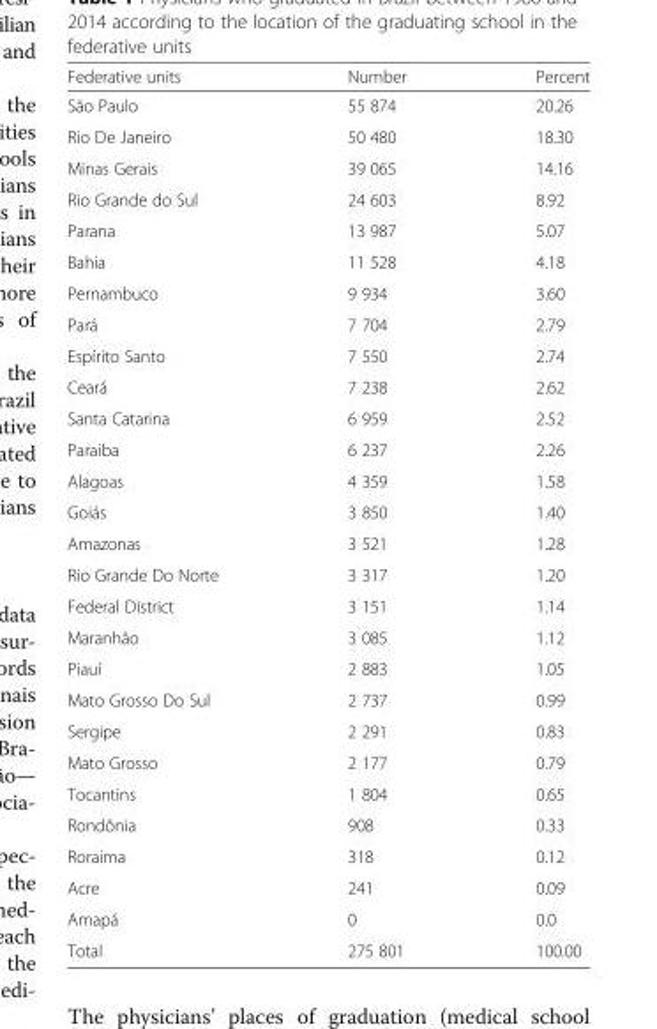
<table><thead><tr><td>Federative units</td><td>Number</td><td>Percent</td></tr></thead><tbody><tr><td>São Paulo</td><td>55 874</td><td>20.26</td></tr><tr><td>Rio De Janeiro</td><td>50 480</td><td>18.30</td></tr><tr><td>Minas Gerais</td><td>39 065</td><td>14.16</td></tr><tr><td>Rio Grande do Sul</td><td>24 603</td><td>8.92</td></tr><tr><td>Parana</td><td>13 987</td><td>5.07</td></tr><tr><td>Bahia</td><td>11 528</td><td>4.18</td></tr><tr><td>Pernambuco</td><td>9 934</td><td>3.60</td></tr><tr><td>Pará</td><td>7 704</td><td>2.79</td></tr><tr><td>Espírito Santo</td><td>7 550</td><td>2.74</td></tr><tr><td>Ceará</td><td>7 238</td><td>2.62</td></tr><tr><td>Santa Catarina</td><td>6 959</td><td>2.52</td></tr><tr><td>Paraiba</td><td>6 237</td><td>2.26</td></tr><tr><td>Alagoas</td><td>4 359</td><td>1.58</td></tr><tr><td>Goiás</td><td>3 850</td><td>1.40</td></tr><tr><td>Amazonas</td><td>3 521</td><td>1.28</td></tr><tr><td>Rio Grande Do Norte</td><td>3 317</td><td>1.20</td></tr><tr><td>Federal District</td><td>3 151</td><td>1.14</td></tr><tr><td>Maranhão</td><td>3 085</td><td>1.12</td></tr><tr><td>Piauí</td><td>2 883</td><td>1.05</td></tr><tr><td>Mato Grosso Do Sul</td><td>2 737</td><td>0.99</td></tr><tr><td>Sergipe</td><td>2 291</td><td>0.83</td></tr><tr><td>Mato Grosso</td><td>2 177</td><td>0.79</td></tr><tr><td>Tocantins</td><td>1 804</td><td>0.65</td></tr><tr><td>Rondônia</td><td>908</td><td>0.33</td></tr><tr><td>Roraima</td><td>318</td><td>0.12</td></tr><tr><td>Acre</td><td>241</td><td>0.09</td></tr><tr><td>Amapá</td><td>0</td><td>0.0</td></tr><tr><td>Total</td><td>275 801</td><td>100.00</td></tr></tbody></table>